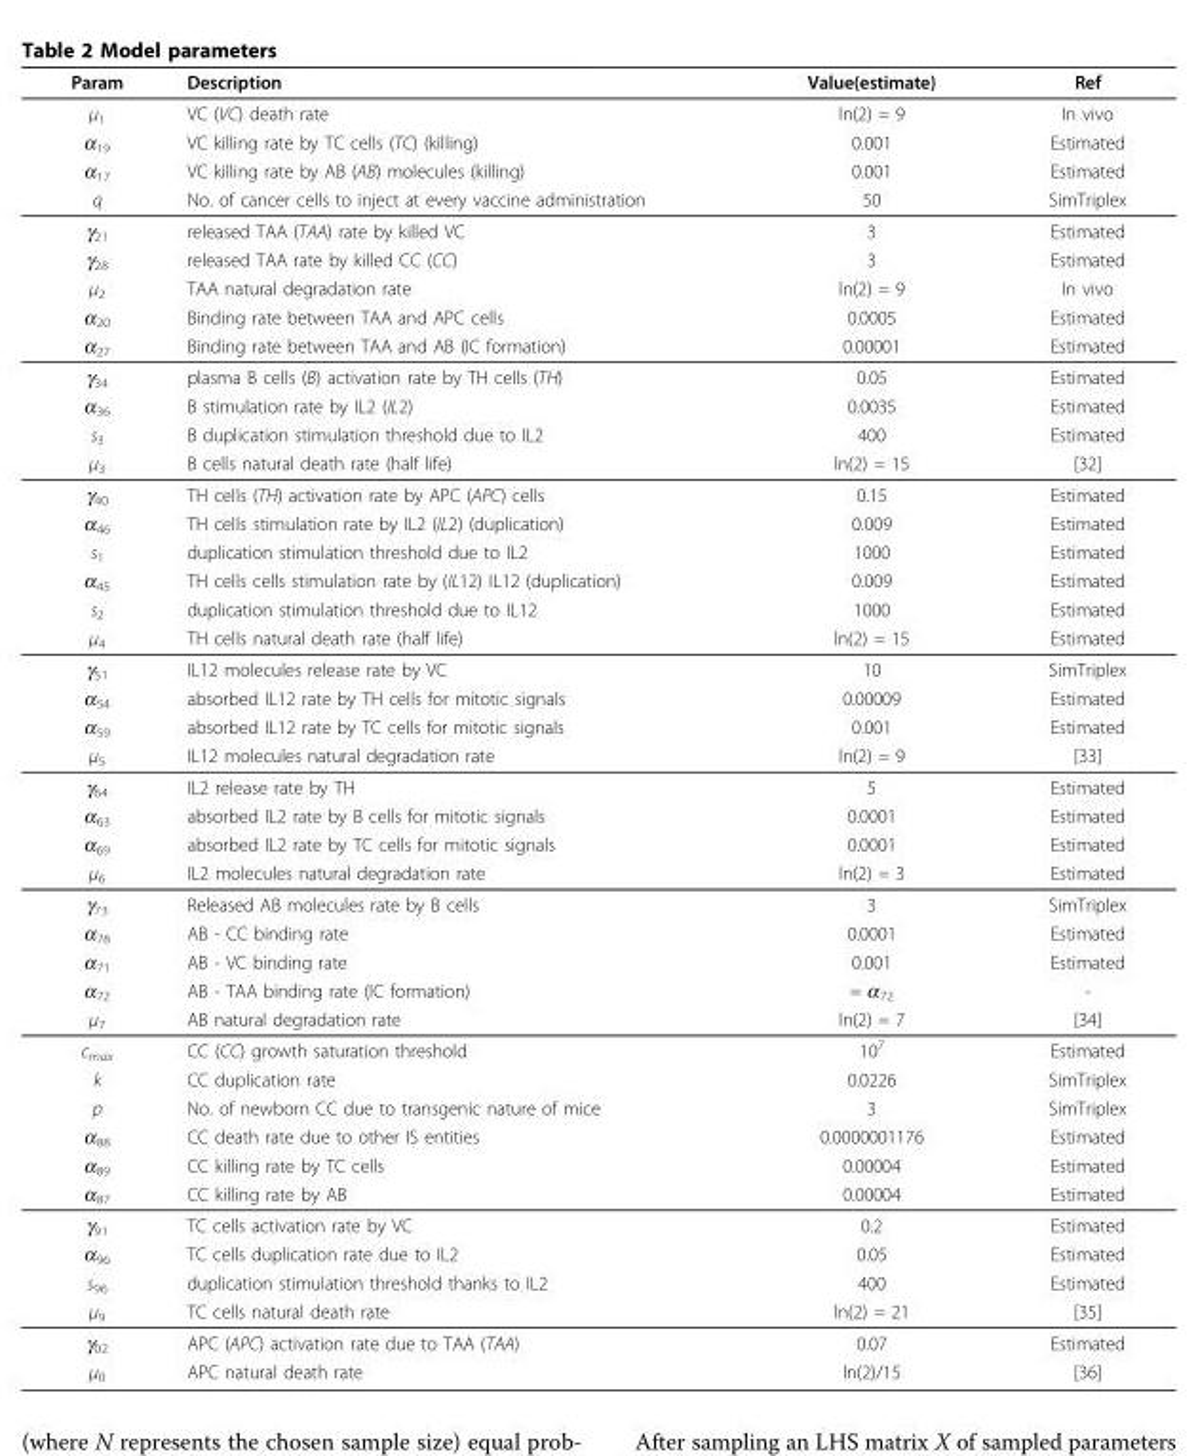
<table><thead><tr><td>Param</td><td>Description</td><td>Value(estimate)</td><td>Ref</td></tr></thead><tbody><tr><td>μ<sub>1</sub></td><td>VC (VC) death rate</td><td>ln(2) = 9</td><td>In vivo</td></tr><tr><td>α<sub>19</sub></td><td>VC killing rate by TC cells (TC) (killing)</td><td>0.001</td><td>Estimated</td></tr><tr><td>α<sub>17</sub></td><td>VC killing rate by AB (AB) molecules (killing)</td><td>0.001</td><td>Estimated</td></tr><tr><td>q</td><td>No. of cancer cells to inject at every vaccine administration</td><td>50</td><td>SimTriplex</td></tr><tr><td>γ<sub>21</sub></td><td>released TAA (TAA) rate by killed VC</td><td>3</td><td>Estimated</td></tr><tr><td>γ<sub>28</sub></td><td>released TAA rate by killed CC (CC)</td><td>3</td><td>Estimated</td></tr><tr><td>μ<sub>2</sub></td><td>TAA natural degradation rate</td><td>ln(2) = 9</td><td>In vivo</td></tr><tr><td>α<sub>20</sub></td><td>Binding rate between TAA and APC cells</td><td>0.0005</td><td>Estimated</td></tr><tr><td>α<sub>27</sub></td><td>Binding rate between TAA and AB (IC formation)</td><td>0.00001</td><td>Estimated</td></tr><tr><td>γ<sub>34</sub></td><td>plasma B cells (B) activation rate by TH cells (TH)</td><td>0.05</td><td>Estimated</td></tr><tr><td>α<sub>36</sub></td><td>B stimulation rate by IL2 (IL2)</td><td>0.0035</td><td>Estimated</td></tr><tr><td>s<sub>3</sub></td><td>B duplication stimulation threshold due to IL2</td><td>400</td><td>Estimated</td></tr><tr><td>μ<sub>3</sub></td><td>B cells natural death rate (half life)</td><td>ln(2) = 15</td><td>[32]</td></tr><tr><td>γ<sub>40</sub></td><td>TH cells (TH) activation rate by APC (APC) cells</td><td>0.15</td><td>Estimated</td></tr><tr><td>α<sub>46</sub></td><td>TH cells stimulation rate by IL2 (IL2) (duplication)</td><td>0.009</td><td>Estimated</td></tr><tr><td>s<sub>1</sub></td><td>duplication stimulation threshold due to IL2</td><td>1000</td><td>Estimated</td></tr><tr><td>α<sub>45</sub></td><td>TH cells cells stimulation rate by (IL12) IL12 (duplication)</td><td>0.009</td><td>Estimated</td></tr><tr><td>s<sub>2</sub></td><td>duplication stimulation threshold due to IL12</td><td>1000</td><td>Estimated</td></tr><tr><td>μ<sub>4</sub></td><td>TH cells natural death rate (half life)</td><td>ln(2) = 15</td><td>Estimated</td></tr><tr><td>γ<sub>51</sub></td><td>IL12 molecules release rate by VC</td><td>10</td><td>SimTriplex</td></tr><tr><td>α<sub>54</sub></td><td>absorbed IL12 rate by TH cells for mitotic signals</td><td>0.00009</td><td>Estimated</td></tr><tr><td>α<sub>59</sub></td><td>absorbed IL12 rate by TC cells for mitotic signals</td><td>0.001</td><td>Estimated</td></tr><tr><td>μ<sub>5</sub></td><td>IL12 molecules natural degradation rate</td><td>ln(2) = 9</td><td>[33]</td></tr><tr><td>γ<sub>64</sub></td><td>IL2 release rate by TH</td><td>5</td><td>Estimated</td></tr><tr><td>α<sub>63</sub></td><td>absorbed IL2 rate by B cells for mitotic signals</td><td>0.0001</td><td>Estimated</td></tr><tr><td>α<sub>69</sub></td><td>absorbed IL2 rate by TC cells for mitotic signals</td><td>0.0001</td><td>Estimated</td></tr><tr><td>μ<sub>6</sub></td><td>IL2 molecules natural degradation rate</td><td>ln(2) = 3</td><td>Estimated</td></tr><tr><td>γ<sub>73</sub></td><td>Released AB molecules rate by B cells</td><td>3</td><td>SimTriplex</td></tr><tr><td>α<sub>78</sub></td><td>AB - CC binding rate</td><td>0.0001</td><td>Estimated</td></tr><tr><td>α<sub>71</sub></td><td>AB - VC binding rate</td><td>0.001</td><td>Estimated</td></tr><tr><td>α<sub>72</sub></td><td>AB - TAA binding rate (IC formation)</td><td>= α<sub>72</sub></td><td>-</td></tr><tr><td>μ<sub>7</sub></td><td>AB natural degradation rate</td><td>ln(2) = 7</td><td>[34]</td></tr><tr><td>c<sub>max</sub></td><td>CC (CC) growth saturation threshold</td><td>10<sup>7</sup></td><td>Estimated</td></tr><tr><td>k</td><td>CC duplication rate</td><td>0.0226</td><td>SimTriplex</td></tr><tr><td>p</td><td>No. of newborn CC due to transgenic nature of mice</td><td>3</td><td>SimTriplex</td></tr><tr><td>α<sub>88</sub></td><td>CC death rate due to other IS entities</td><td>0.0000001176</td><td>Estimated</td></tr><tr><td>α<sub>89</sub></td><td>CC killing rate by TC cells</td><td>0.00004</td><td>Estimated</td></tr><tr><td>α<sub>87</sub></td><td>CC killing rate by AB</td><td>0.00004</td><td>Estimated</td></tr><tr><td>γ<sub>91</sub></td><td>TC cells activation rate by VC</td><td>0.2</td><td>Estimated</td></tr><tr><td>α<sub>96</sub></td><td>TC cells duplication rate due to IL2</td><td>0.05</td><td>Estimated</td></tr><tr><td>s<sub>96</sub></td><td>duplication stimulation threshold thanks to IL2</td><td>400</td><td>Estimated</td></tr><tr><td>μ<sub>9</sub></td><td>TC cells natural death rate</td><td>ln(2) = 21</td><td>[35]</td></tr><tr><td>γ<sub>02</sub></td><td>APC (APC) activation rate due to TAA (TAA)</td><td>0.07</td><td>Estimated</td></tr><tr><td>μ<sub>0</sub></td><td>APC natural death rate</td><td>ln(2)/15</td><td>[36]</td></tr></tbody></table>